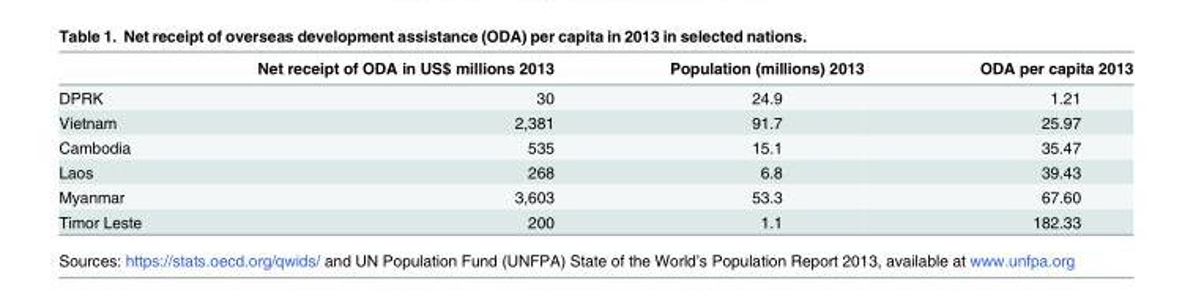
<table><thead><tr><td></td><td>Net receipt of ODA in US$ millions 2013</td><td>Population (millions) 2013</td><td>ODA per capita 2013</td></tr></thead><tbody><tr><td>DPRK</td><td>30</td><td>24.9</td><td>1.21</td></tr><tr><td>Vietnam</td><td>2,381</td><td>91.7</td><td>25.97</td></tr><tr><td>Cambodia</td><td>535</td><td>15.1</td><td>35.47</td></tr><tr><td>Laos</td><td>268</td><td>6.8</td><td>39.43</td></tr><tr><td>Myanmar</td><td>3,603</td><td>53.3</td><td>67.60</td></tr><tr><td>Timor Leste</td><td>200</td><td>1.1</td><td>182.33</td></tr></tbody></table>